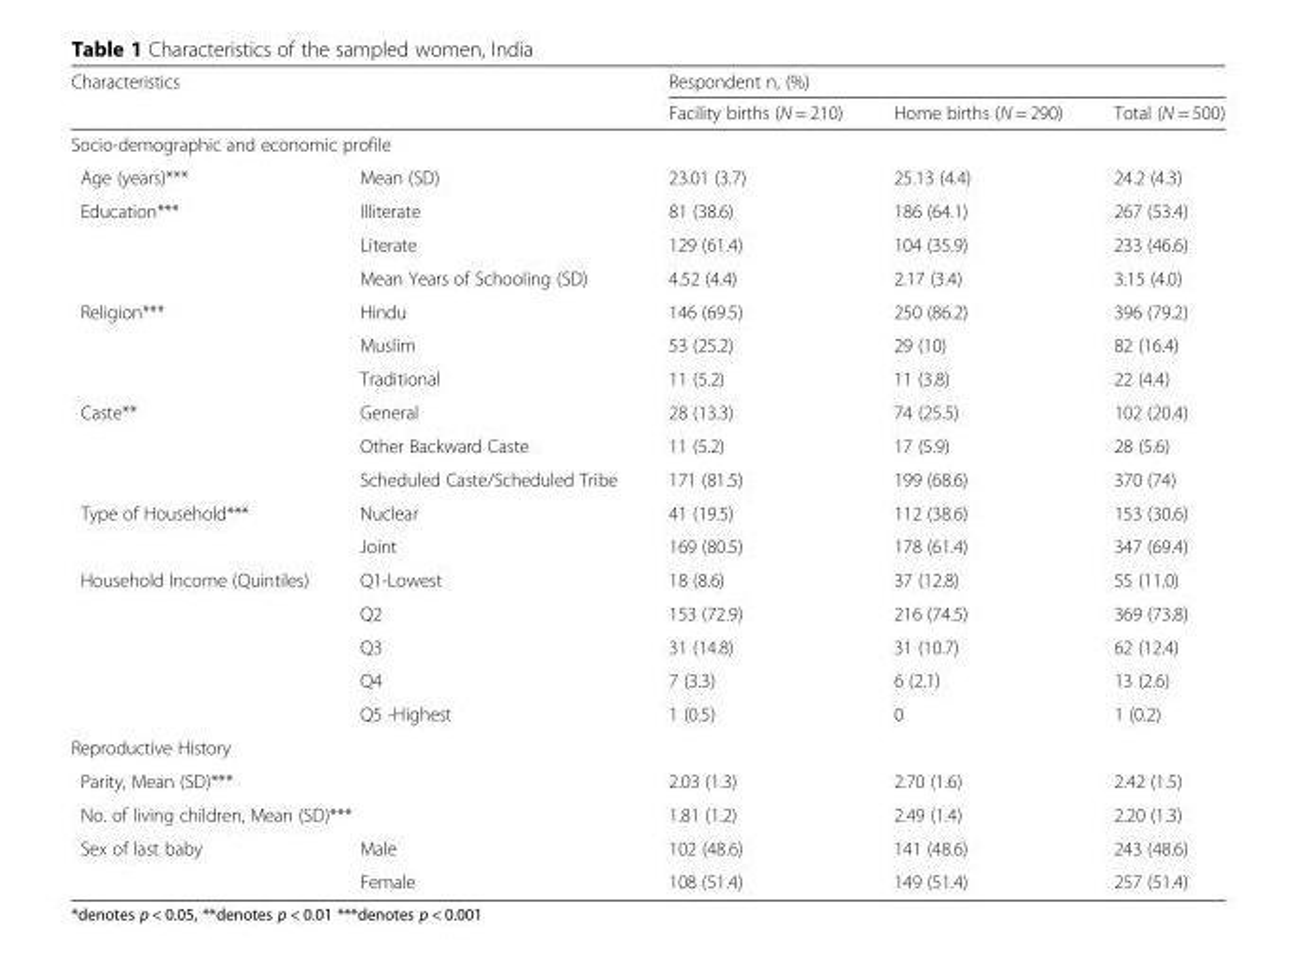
<table><thead><tr><td rowspan="2" colspan="2">Characteristics</td><td colspan="3">Respondent n, (%)</td></tr><tr><td>Facility births (N = 210)</td><td>Home births (N = 290)</td><td>Total (N = 500)</td></tr><tr><td colspan="5">Socio-demographic and economic profile</td></tr><tr><td>Age (years)***</td><td>Mean (SD)</td><td>23.01 (3.7)</td><td>25.13 (4.4)</td><td>24.2 (4.3)</td></tr></thead><tbody><tr><td rowspan="3">Education***</td><td>Illiterate</td><td>81 (38.6)</td><td>186 (64.1)</td><td>267 (53.4)</td></tr><tr><td>Literate</td><td>129 (61.4)</td><td>104 (35.9)</td><td>233 (46.6)</td></tr><tr><td>Mean Years of Schooling (SD)</td><td>4.52 (4.4)</td><td>2.17 (3.4)</td><td>3.15 (4.0)</td></tr><tr><td rowspan="3">Religion***</td><td>Hindu</td><td>146 (69.5)</td><td>250 (86.2)</td><td>396 (79.2)</td></tr><tr><td>Muslim</td><td>53 (25.2)</td><td>29 (10)</td><td>82 (16.4)</td></tr><tr><td>Traditional</td><td>11 (5.2)</td><td>11 (3.8)</td><td>22 (4.4)</td></tr><tr><td rowspan="3">Caste**</td><td>General</td><td>28 (13.3)</td><td>74 (25.5)</td><td>102 (20.4)</td></tr><tr><td>Other Backward Caste</td><td>11 (5.2)</td><td>17 (5.9)</td><td>28 (5.6)</td></tr><tr><td>Scheduled Caste/Scheduled Tribe</td><td>171 (81.5)</td><td>199 (68.6)</td><td>370 (74)</td></tr><tr><td rowspan="2">Type of Household***</td><td>Nuclear</td><td>41 (19.5)</td><td>112 (38.6)</td><td>153 (30.6)</td></tr><tr><td>Joint</td><td>169 (80.5)</td><td>178 (61.4)</td><td>347 (69.4)</td></tr><tr><td rowspan="5">Household Income (Quintiles)</td><td>Q1-Lowest</td><td>18 (8.6)</td><td>37 (12.8)</td><td>55 (11.0)</td></tr><tr><td>Q2</td><td>153 (72.9)</td><td>216 (74.5)</td><td>369 (73.8)</td></tr><tr><td>Q3</td><td>31 (14.8)</td><td>31 (10.7)</td><td>62 (12.4)</td></tr><tr><td>Q4</td><td>7 (3.3)</td><td>6 (2.1)</td><td>13 (2.6)</td></tr><tr><td>Q5 -Highest</td><td>1 (0.5)</td><td>0</td><td>1 (0.2)</td></tr><tr><td colspan="5">Reproductive History</td></tr><tr><td colspan="2">Parity, Mean (SD)***</td><td>2.03 (1.3)</td><td>2.70 (1.6)</td><td>2.42 (1.5)</td></tr><tr><td colspan="2">No. of living children, Mean (SD)***</td><td>1.81 (1.2)</td><td>2.49 (1.4)</td><td>2.20 (1.3)</td></tr><tr><td rowspan="2">Sex of last baby</td><td>Male</td><td>102 (48.6)</td><td>141 (48.6)</td><td>243 (48.6)</td></tr><tr><td>Female</td><td>108 (51.4)</td><td>149 (51.4)</td><td>257 (51.4)</td></tr></tbody></table>